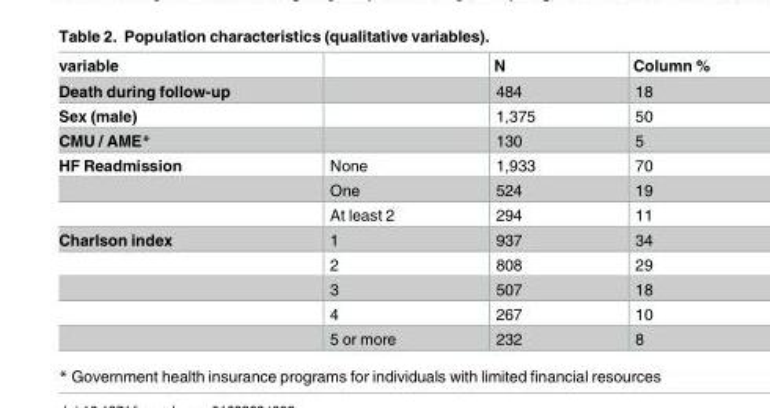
<table><thead><tr><td>variable</td><td></td><td>N</td><td>Column %</td></tr></thead><tbody><tr><td>Death during follow-up</td><td></td><td>484</td><td>18</td></tr><tr><td>Sex (male)</td><td></td><td>1,375</td><td>50</td></tr><tr><td>CMU / AME*</td><td></td><td>130</td><td>5</td></tr><tr><td rowspan="3">HF Readmission</td><td>None</td><td>1,933</td><td>70</td></tr><tr><td>One</td><td>524</td><td>19</td></tr><tr><td>At least 2</td><td>294</td><td>11</td></tr><tr><td rowspan="5">Charlson index</td><td>1</td><td>937</td><td>34</td></tr><tr><td>2</td><td>808</td><td>29</td></tr><tr><td>3</td><td>507</td><td>18</td></tr><tr><td>4</td><td>267</td><td>10</td></tr><tr><td>5 or more</td><td>232</td><td>8</td></tr></tbody></table>